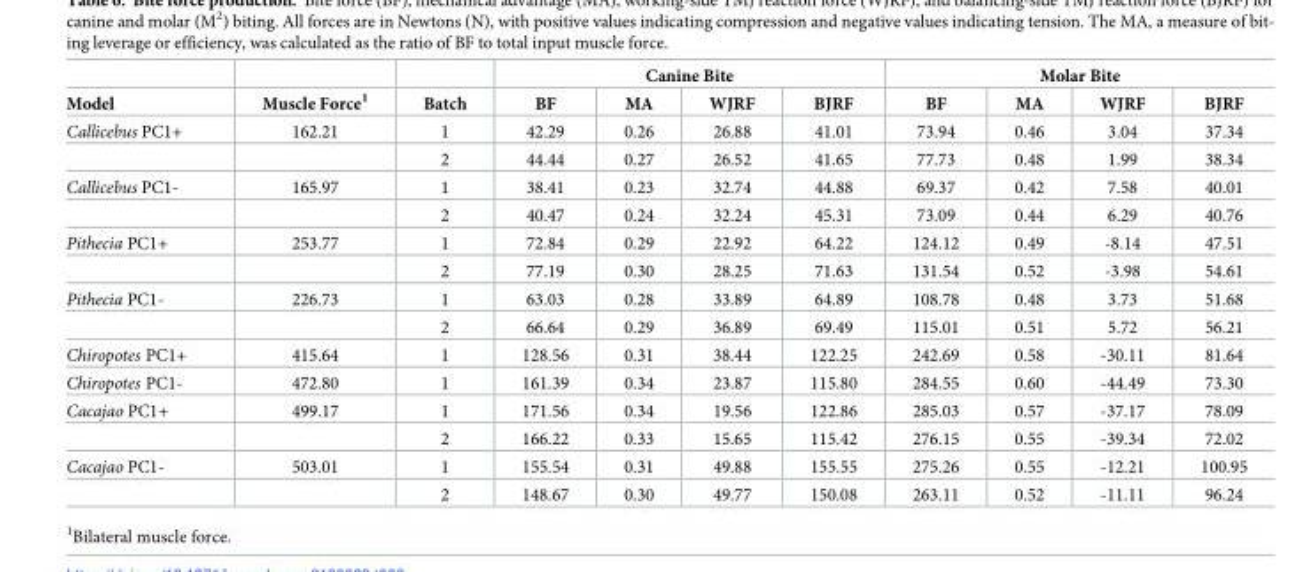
<table><thead><tr><td rowspan="2">Model</td><td rowspan="2">Muscle Force<sup>1</sup></td><td rowspan="2">Batch</td><td colspan="4">Canine Bite</td><td colspan="4">Molar Bite</td></tr><tr><td>BF</td><td>MA</td><td>WJRF</td><td>BJRF</td><td>BF</td><td>MA</td><td>WJRF</td><td>BJRF</td></tr></thead><tbody><tr><td rowspan="2">Callicebus PC1+</td><td>162.21</td><td>1</td><td>42.29</td><td>0.26</td><td>26.88</td><td>41.01</td><td>73.94</td><td>0.46</td><td>3.04</td><td>37.34</td></tr><tr><td></td><td>2</td><td>44.44</td><td>0.27</td><td>26.52</td><td>41.65</td><td>77.73</td><td>0.48</td><td>1.99</td><td>38.34</td></tr><tr><td rowspan="2">Callicebus PC1-</td><td>165.97</td><td>1</td><td>38.41</td><td>0.23</td><td>32.74</td><td>44.88</td><td>69.37</td><td>0.42</td><td>7.58</td><td>40.01</td></tr><tr><td></td><td>2</td><td>40.47</td><td>0.24</td><td>32.24</td><td>45.31</td><td>73.09</td><td>0.44</td><td>6.29</td><td>40.76</td></tr><tr><td rowspan="2">Pithecia PC1+</td><td>253.77</td><td>1</td><td>72.84</td><td>0.29</td><td>22.92</td><td>64.22</td><td>124.12</td><td>0.49</td><td>-8.14</td><td>47.51</td></tr><tr><td></td><td>2</td><td>77.19</td><td>0.30</td><td>28.25</td><td>71.63</td><td>131.54</td><td>0.52</td><td>-3.98</td><td>54.61</td></tr><tr><td rowspan="2">Pithecia PC1-</td><td>226.73</td><td>1</td><td>63.03</td><td>0.28</td><td>33.89</td><td>64.89</td><td>108.78</td><td>0.48</td><td>3.73</td><td>51.68</td></tr><tr><td></td><td>2</td><td>66.64</td><td>0.29</td><td>36.89</td><td>69.49</td><td>115.01</td><td>0.51</td><td>5.72</td><td>56.21</td></tr><tr><td>Chiropotes PC1+</td><td>415.64</td><td>1</td><td>128.56</td><td>0.31</td><td>38.44</td><td>122.25</td><td>242.69</td><td>0.58</td><td>-30.11</td><td>81.64</td></tr><tr><td>Chiropotes PC1-</td><td>472.80</td><td>1</td><td>161.39</td><td>0.34</td><td>23.87</td><td>115.80</td><td>284.55</td><td>0.60</td><td>-44.49</td><td>73.30</td></tr><tr><td rowspan="2">Cacajao PC1+</td><td>499.17</td><td>1</td><td>171.56</td><td>0.34</td><td>19.56</td><td>122.86</td><td>285.03</td><td>0.57</td><td>-37.17</td><td>78.09</td></tr><tr><td></td><td>2</td><td>166.22</td><td>0.33</td><td>15.65</td><td>115.42</td><td>276.15</td><td>0.55</td><td>-39.34</td><td>72.02</td></tr><tr><td rowspan="2">Cacajao PC1-</td><td>503.01</td><td>1</td><td>155.54</td><td>0.31</td><td>49.88</td><td>155.55</td><td>275.26</td><td>0.55</td><td>-12.21</td><td>100.95</td></tr><tr><td></td><td>2</td><td>148.67</td><td>0.30</td><td>49.77</td><td>150.08</td><td>263.11</td><td>0.52</td><td>-11.11</td><td>96.24</td></tr></tbody></table>